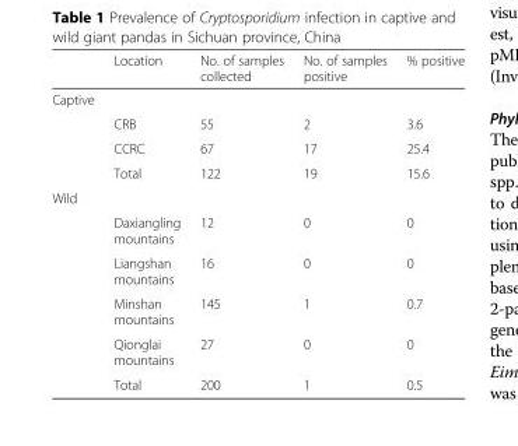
<table><thead><tr><td></td><td>Location</td><td>No. of samples collected</td><td>No. of samples positive</td><td>% positive</td></tr></thead><tbody><tr><td colspan="5">Captive</td></tr><tr><td></td><td>CRB</td><td>55</td><td>2</td><td>3.6</td></tr><tr><td></td><td>CCRC</td><td>67</td><td>17</td><td>25.4</td></tr><tr><td></td><td>Total</td><td>122</td><td>19</td><td>15.6</td></tr><tr><td colspan="5">Wild</td></tr><tr><td></td><td>Daxiangling mountains</td><td>12</td><td>0</td><td>0</td></tr><tr><td></td><td>Liangshan mountains</td><td>16</td><td>0</td><td>0</td></tr><tr><td></td><td>Minshan mountains</td><td>145</td><td>1</td><td>0.7</td></tr><tr><td></td><td>Qionglai mountains</td><td>27</td><td>0</td><td>0</td></tr><tr><td></td><td>Total</td><td>200</td><td>1</td><td>0.5</td></tr></tbody></table>